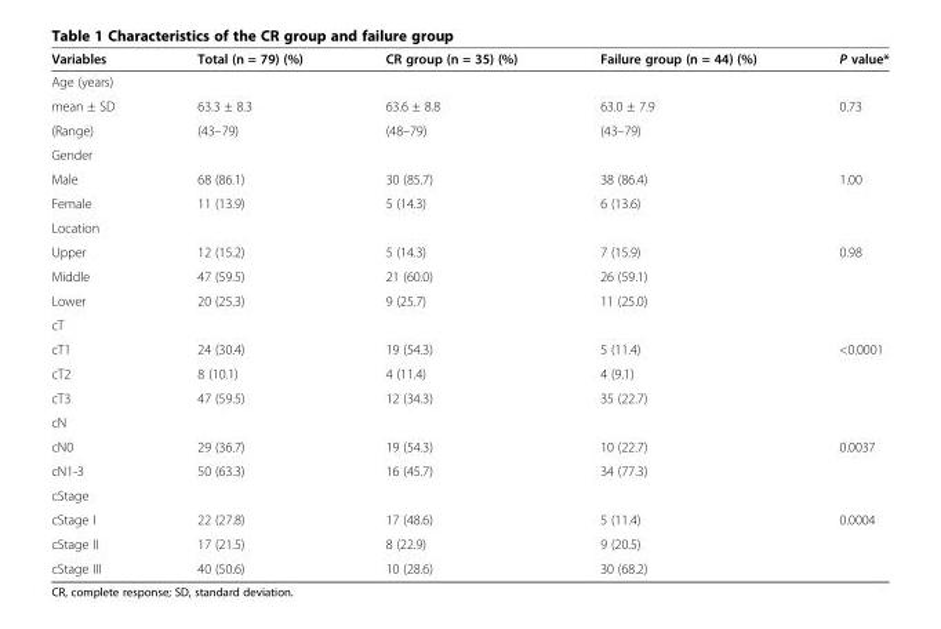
<table><thead><tr><td>Variables</td><td>Total (n = 79) (%)</td><td>CR group (n = 35) (%)</td><td>Failure group (n = 44) (%)</td><td>P value*</td></tr></thead><tbody><tr><td colspan="5">Age (years)</td></tr><tr><td>mean ± SD</td><td>63.3 ± 8.3</td><td>63.6 ± 8.8</td><td>63.0 ± 7.9</td><td>0.73</td></tr><tr><td>(Range)</td><td>(43–79)</td><td>(48–79)</td><td>(43–79)</td><td></td></tr><tr><td colspan="5">Gender</td></tr><tr><td>Male</td><td>68 (86.1)</td><td>30 (85.7)</td><td>38 (86.4)</td><td>1.00</td></tr><tr><td>Female</td><td>11 (13.9)</td><td>5 (14.3)</td><td>6 (13.6)</td><td></td></tr><tr><td colspan="5">Location</td></tr><tr><td>Upper</td><td>12 (15.2)</td><td>5 (14.3)</td><td>7 (15.9)</td><td>0.98</td></tr><tr><td>Middle</td><td>47 (59.5)</td><td>21 (60.0)</td><td>26 (59.1)</td><td></td></tr><tr><td>Lower</td><td>20 (25.3)</td><td>9 (25.7)</td><td>11 (25.0)</td><td></td></tr><tr><td colspan="5">cT</td></tr><tr><td>cT1</td><td>24 (30.4)</td><td>19 (54.3)</td><td>5 (11.4)</td><td>&lt;0.0001</td></tr><tr><td>cT2</td><td>8 (10.1)</td><td>4 (11.4)</td><td>4 (9.1)</td><td></td></tr><tr><td>cT3</td><td>47 (59.5)</td><td>12 (34.3)</td><td>35 (22.7)</td><td></td></tr><tr><td colspan="5">cN</td></tr><tr><td>cN0</td><td>29 (36.7)</td><td>19 (54.3)</td><td>10 (22.7)</td><td>0.0037</td></tr><tr><td>cN1-3</td><td>50 (63.3)</td><td>16 (45.7)</td><td>34 (77.3)</td><td></td></tr><tr><td colspan="5">cStage</td></tr><tr><td>cStage I</td><td>22 (27.8)</td><td>17 (48.6)</td><td>5 (11.4)</td><td>0.0004</td></tr><tr><td>cStage II</td><td>17 (21.5)</td><td>8 (22.9)</td><td>9 (20.5)</td><td></td></tr><tr><td>cStage III</td><td>40 (50.6)</td><td>10 (28.6)</td><td>30 (68.2)</td><td></td></tr></tbody></table>